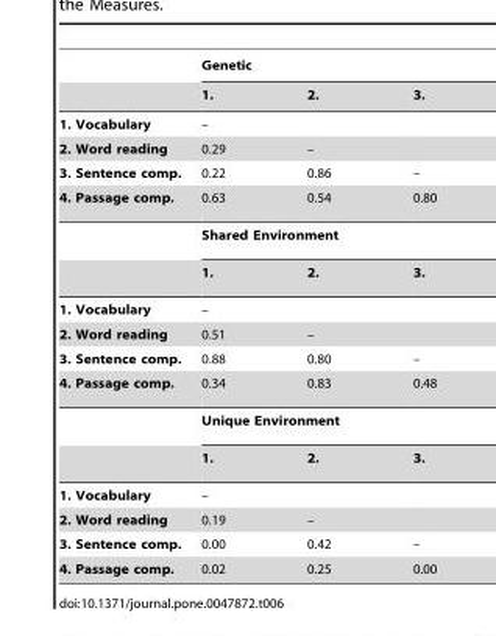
<table><thead><tr><td rowspan="2"></td><td colspan="3">Genetic</td></tr><tr><td>1.</td><td>2.</td><td>3.</td></tr></thead><tbody><tr><td>1. Vocabulary</td><td>–</td><td></td><td></td></tr><tr><td>2. Word reading</td><td>0.29</td><td>–</td><td></td></tr><tr><td>3. Sentence comp.</td><td>0.22</td><td>0.86</td><td>–</td></tr><tr><td rowspan="3">4. Passage comp.</td><td>0.63</td><td>0.54</td><td>0.80</td></tr><tr><td colspan="3">Shared Environment</td></tr><tr><td>1.</td><td>2.</td><td>3.</td></tr><tr><td>1. Vocabulary</td><td>–</td><td></td><td></td></tr><tr><td>2. Word reading</td><td>0.51</td><td>–</td><td></td></tr><tr><td>3. Sentence comp.</td><td>0.88</td><td>0.80</td><td>–</td></tr><tr><td rowspan="3">4. Passage comp.</td><td>0.34</td><td>0.83</td><td>0.48</td></tr><tr><td colspan="3">Unique Environment</td></tr><tr><td>1.</td><td>2.</td><td>3.</td></tr><tr><td>1. Vocabulary</td><td>–</td><td></td><td></td></tr><tr><td>2. Word reading</td><td>0.19</td><td>–</td><td></td></tr><tr><td>3. Sentence comp.</td><td>0.00</td><td>0.42</td><td>–</td></tr><tr><td>4. Passage comp.</td><td>0.02</td><td>0.25</td><td>0.00</td></tr></tbody></table>